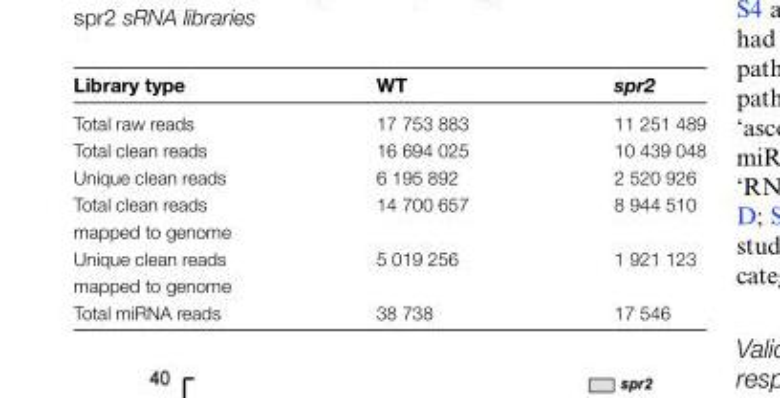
<table><thead><tr><td>Library type</td><td>WT</td><td>spr2</td></tr></thead><tbody><tr><td>Total raw reads</td><td>17 753 883</td><td>11 251 489</td></tr><tr><td>Total clean reads</td><td>16 694 025</td><td>10 439 048</td></tr><tr><td>Unique clean reads</td><td>6 195 892</td><td>2 520 926</td></tr><tr><td>Total clean reads mapped to genome</td><td>14 700 657</td><td>8 944 510</td></tr><tr><td>Unique clean reads mapped to genome</td><td>5 019 256</td><td>1 921 123</td></tr><tr><td>Total miRNA reads</td><td>38 738</td><td>17 546</td></tr></tbody></table>